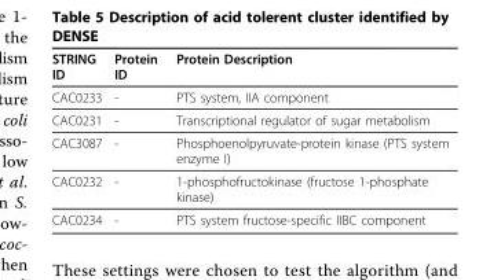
<table><thead><tr><td>STRING ID</td><td>Protein ID</td><td>Protein Description</td></tr></thead><tbody><tr><td>CAC0233</td><td>-</td><td>PTS system, IIA component</td></tr><tr><td>CAC0231</td><td>-</td><td>Transcriptional regulator of sugar metabolism</td></tr><tr><td>CAC3087</td><td>-</td><td>Phosphoenolpyruvate-protein kinase (PTS system enzyme I)</td></tr><tr><td>CAC0232</td><td>-</td><td>1-phosphofructokinase (fructose 1-phosphate kinase)</td></tr><tr><td>CAC0234</td><td>-</td><td>PTS system fructose-specific IIBC component</td></tr></tbody></table>